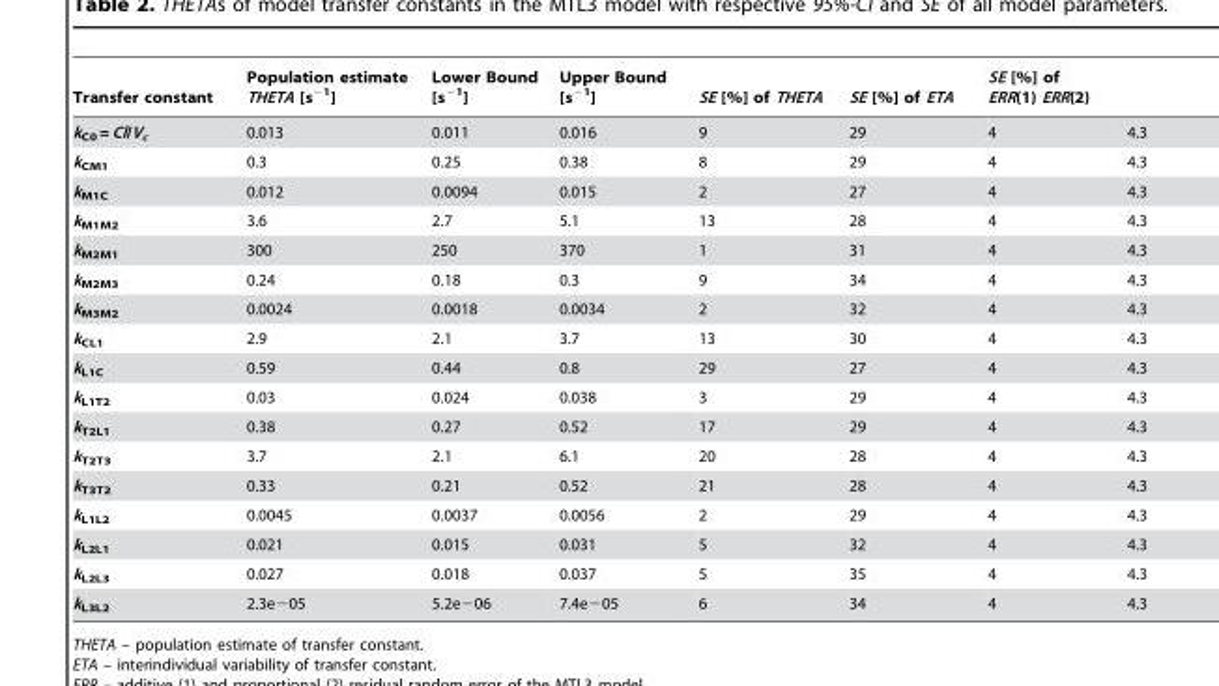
<table><thead><tr><td rowspan="2">Transfer constant k<sub>C0</sub> = Cl/V<sub>c</sub></td><td rowspan="2">Population estimate THETA [s<sup>−1</sup>] 0.013</td><td rowspan="2">Lower Bound [s<sup>−1</sup>] 0.011</td><td rowspan="2">Upper Bound [s<sup>−1</sup>] 0.016</td><td rowspan="2">SE [%] of THETA 9</td><td rowspan="2">SE [%] of ETA 29</td><td colspan="2">SE [%] of ERR(1) ERR(2)</td></tr><tr><td>4</td><td>4.3</td></tr></thead><tbody><tr><td>k<sub>CM1</sub></td><td>0.3</td><td>0.25</td><td>0.38</td><td>8</td><td>29</td><td>4</td><td>4.3</td></tr><tr><td>k<sub>M1C</sub></td><td>0.012</td><td>0.0094</td><td>0.015</td><td>2</td><td>27</td><td>4</td><td>4.3</td></tr><tr><td>k<sub>M1M2</sub></td><td>3.6</td><td>2.7</td><td>5.1</td><td>13</td><td>28</td><td>4</td><td>4.3</td></tr><tr><td>k<sub>M2M1</sub></td><td>300</td><td>250</td><td>370</td><td>1</td><td>31</td><td>4</td><td>4.3</td></tr><tr><td>k<sub>M2M3</sub></td><td>0.24</td><td>0.18</td><td>0.3</td><td>9</td><td>34</td><td>4</td><td>4.3</td></tr><tr><td>k<sub>M3M2</sub></td><td>0.0024</td><td>0.0018</td><td>0.0034</td><td>2</td><td>32</td><td>4</td><td>4.3</td></tr><tr><td>k<sub>CL1</sub></td><td>2.9</td><td>2.1</td><td>3.7</td><td>13</td><td>30</td><td>4</td><td>4.3</td></tr><tr><td>k<sub>L1C</sub></td><td>0.59</td><td>0.44</td><td>0.8</td><td>29</td><td>27</td><td>4</td><td>4.3</td></tr><tr><td>k<sub>L1T2</sub></td><td>0.03</td><td>0.024</td><td>0.038</td><td>3</td><td>29</td><td>4</td><td>4.3</td></tr><tr><td>k<sub>T2L1</sub></td><td>0.38</td><td>0.27</td><td>0.52</td><td>17</td><td>29</td><td>4</td><td>4.3</td></tr><tr><td>k<sub>T2T3</sub></td><td>3.7</td><td>2.1</td><td>6.1</td><td>20</td><td>28</td><td>4</td><td>4.3</td></tr><tr><td>k<sub>T3T2</sub></td><td>0.33</td><td>0.21</td><td>0.52</td><td>21</td><td>28</td><td>4</td><td>4.3</td></tr><tr><td>k<sub>L1L2</sub></td><td>0.0045</td><td>0.0037</td><td>0.0056</td><td>2</td><td>29</td><td>4</td><td>4.3</td></tr><tr><td>k<sub>L2L1</sub></td><td>0.021</td><td>0.015</td><td>0.031</td><td>5</td><td>32</td><td>4</td><td>4.3</td></tr><tr><td>k<sub>L2L3</sub></td><td>0.027</td><td>0.018</td><td>0.037</td><td>5</td><td>35</td><td>4</td><td>4.3</td></tr><tr><td>k<sub>L3L2</sub></td><td>2.3e−05</td><td>5.2e−06</td><td>7.4e−05</td><td>6</td><td>34</td><td>4</td><td>4.3</td></tr></tbody></table>